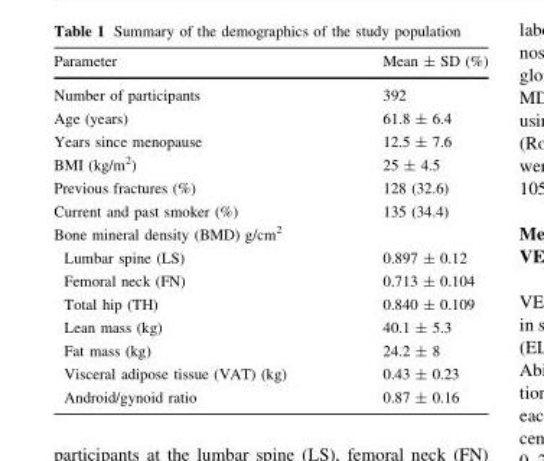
<table><thead><tr><td>Parameter</td><td>Mean ± SD (%)</td></tr></thead><tbody><tr><td>Number of participants</td><td>392</td></tr><tr><td>Age (years)</td><td>61.8 ± 6.4</td></tr><tr><td>Years since menopause</td><td>12.5 ± 7.6</td></tr><tr><td>BMI (kg/m<sup>2</sup>)</td><td>25 ± 4.5</td></tr><tr><td>Previous fractures (%)</td><td>128 (32.6)</td></tr><tr><td>Current and past smoker (%)</td><td>135 (34.4)</td></tr><tr><td colspan="2">Bone mineral density (BMD) g/cm<sup>2</sup></td></tr><tr><td>Lumbar spine (LS)</td><td>0.897 ± 0.12</td></tr><tr><td>Femoral neck (FN)</td><td>0.713 ± 0.104</td></tr><tr><td>Total hip (TH)</td><td>0.840 ± 0.109</td></tr><tr><td>Lean mass (kg)</td><td>40.1 ± 5.3</td></tr><tr><td>Fat mass (kg)</td><td>24.2 ± 8</td></tr><tr><td>Visceral adipose tissue (VAT) (kg)</td><td>0.43 ± 0.23</td></tr><tr><td>Android/gynoid ratio</td><td>0.87 ± 0.16</td></tr></tbody></table>